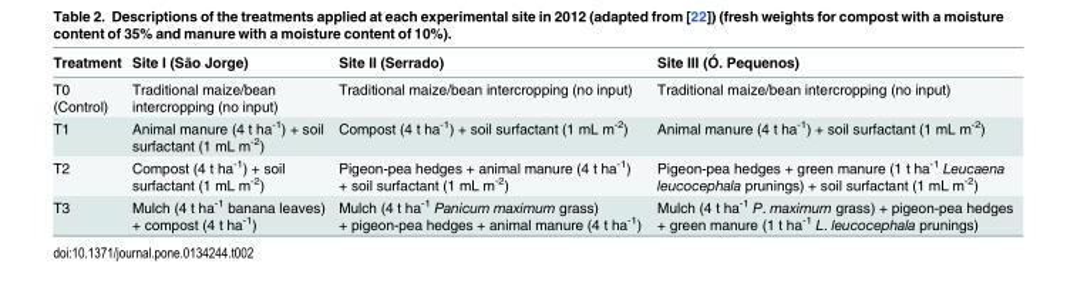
<table><thead><tr><td>Treatment</td><td>Site I (São Jorge)</td><td>Site II (Serrado)</td><td>Site III (Ó. Pequenos)</td></tr></thead><tbody><tr><td>T0 (Control)</td><td>Traditional maize/bean intercropping (no input)</td><td>Traditional maize/bean intercropping (no input)</td><td>Traditional maize/bean intercropping (no input)</td></tr><tr><td>T1</td><td>Animal manure (4 t ha<sup>-1</sup>) + soil surfactant (1 mL m<sup>-2</sup>)</td><td>Compost (4 t ha<sup>-1</sup>) + soil surfactant (1 mL m<sup>-2</sup>)</td><td>Animal manure (4 t ha<sup>-1</sup>) + soil surfactant (1 mL m<sup>-2</sup>)</td></tr><tr><td>T2</td><td>Compost (4 t ha<sup>-1</sup>) + soil surfactant (1 mL m<sup>-2</sup>)</td><td>Pigeon-pea hedges + animal manure (4 t ha<sup>-1</sup>) + soil surfactant (1 mL m<sup>-2</sup>)</td><td>Pigeon-pea hedges + green manure (1 t ha<sup>-1</sup> Leucaena leucocephala prunings) + soil surfactant (1 mL m<sup>-2</sup>)</td></tr><tr><td>T3</td><td>Mulch (4 t ha<sup>-1</sup> banana leaves) + compost (4 t ha<sup>-1</sup>)</td><td>Mulch (4 t ha<sup>-1</sup> Panicum maximum grass) + pigeon-pea hedges + animal manure (4 t ha<sup>-1</sup>)</td><td>Mulch (4 t ha<sup>-1</sup> P. maximum grass) + pigeon-pea hedges + green manure (1 t ha<sup>-1</sup> L. leucocephala prunings)</td></tr></tbody></table>